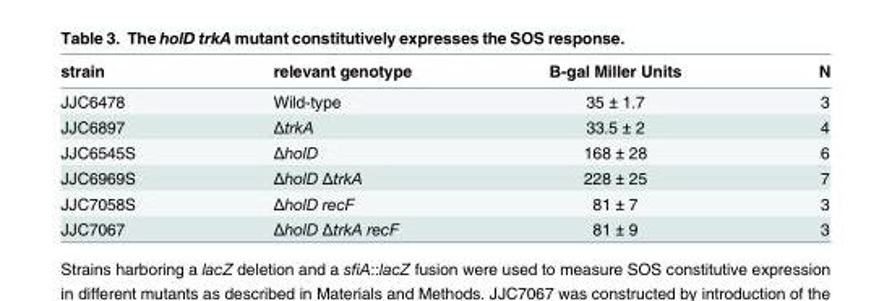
<table><thead><tr><td>strain</td><td>relevant genotype</td><td>Β-gal Miller Units</td><td>N</td></tr></thead><tbody><tr><td>JJC6478</td><td>Wild-type</td><td>35 ± 1.7</td><td>3</td></tr><tr><td>JJC6897</td><td>ΔtrkA</td><td>33.5 ± 2</td><td>4</td></tr><tr><td>JJC6545S</td><td>ΔholD</td><td>168 ± 28</td><td>6</td></tr><tr><td>JJC6969S</td><td>ΔholD ΔtrkA</td><td>228 ± 25</td><td>7</td></tr><tr><td>JJC7058S</td><td>ΔholD recF</td><td>81 ± 7</td><td>3</td></tr><tr><td>JJC7067</td><td>ΔholD ΔtrkA recF</td><td>81 ± 9</td><td>3</td></tr></tbody></table>